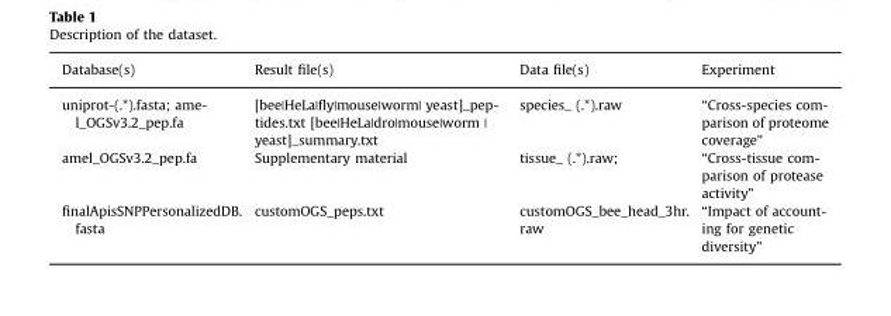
<table><thead><tr><td>Database(s)</td><td>Result file(s)</td><td>Data file(s)</td><td>Experiment</td></tr></thead><tbody><tr><td>uniprot-(.*).fasta; ame- l_OGSv3.2_pep.fa</td><td>[bee|HeLa|fly|mouse|worm| yeast]_pep- tides.txt [bee|HeLa|dro|mouse|worm | yeast]_summary.txt</td><td>species_ (.*).raw</td><td>“Cross-species com- parison of proteome coverage”</td></tr><tr><td>amel_OGSv3.2_pep.fa</td><td>Supplementary material</td><td>tissue_ (.*).raw;</td><td>“Cross-tissue com- parison of protease activity”</td></tr><tr><td>finalApisSNPPersonalizedDB. fasta</td><td>customOGS_peps.txt</td><td>customOGS_bee_head_3hr. raw</td><td>“Impact of account- ing for genetic diversity”</td></tr></tbody></table>